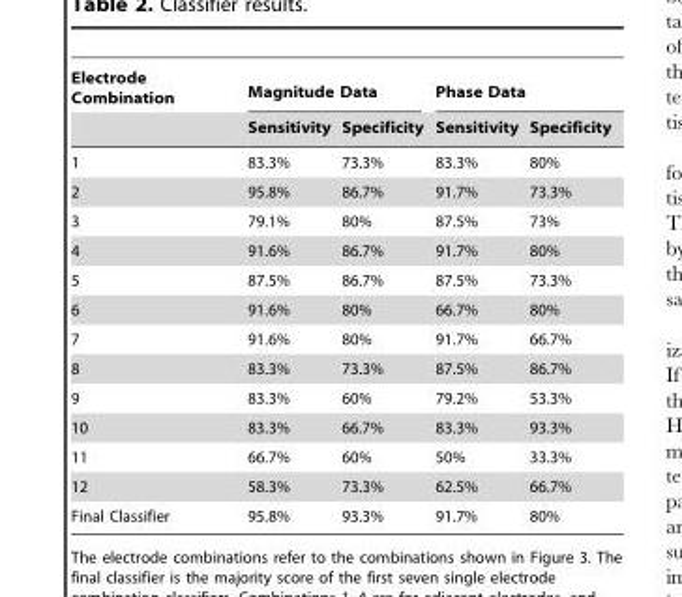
<table><thead><tr><td rowspan="2">Electrode Combination</td><td colspan="2">Magnitude Data</td><td colspan="2">Phase Data</td></tr><tr><td>Sensitivity</td><td>Specificity</td><td>Sensitivity</td><td>Specificity</td></tr></thead><tbody><tr><td>1</td><td>83.3%</td><td>73.3%</td><td>83.3%</td><td>80%</td></tr><tr><td>2</td><td>95.8%</td><td>86.7%</td><td>91.7%</td><td>73.3%</td></tr><tr><td>3</td><td>79.1%</td><td>80%</td><td>87.5%</td><td>73%</td></tr><tr><td>4</td><td>91.6%</td><td>86.7%</td><td>91.7%</td><td>80%</td></tr><tr><td>5</td><td>87.5%</td><td>86.7%</td><td>87.5%</td><td>73.3%</td></tr><tr><td>6</td><td>91.6%</td><td>80%</td><td>66.7%</td><td>80%</td></tr><tr><td>7</td><td>91.6%</td><td>80%</td><td>91.7%</td><td>66.7%</td></tr><tr><td>8</td><td>83.3%</td><td>73.3%</td><td>87.5%</td><td>86.7%</td></tr><tr><td>9</td><td>83.3%</td><td>60%</td><td>79.2%</td><td>53.3%</td></tr><tr><td>10</td><td>83.3%</td><td>66.7%</td><td>83.3%</td><td>93.3%</td></tr><tr><td>11</td><td>66.7%</td><td>60%</td><td>50%</td><td>33.3%</td></tr><tr><td>12</td><td>58.3%</td><td>73.3%</td><td>62.5%</td><td>66.7%</td></tr><tr><td>Final Classifier</td><td>95.8%</td><td>93.3%</td><td>91.7%</td><td>80%</td></tr></tbody></table>